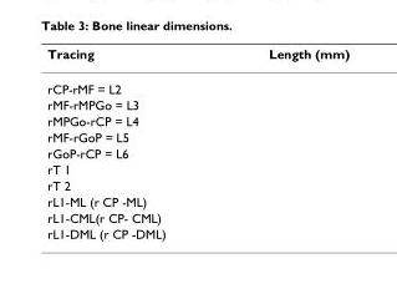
<table><thead><tr><td>Tracing</td><td>Length (mm)</td></tr></thead><tbody><tr><td colspan="2">rCP-rMF = L2</td></tr><tr><td colspan="2">rMF-rMPGo = L3</td></tr><tr><td colspan="2">rMPGo-rCP = L4</td></tr><tr><td colspan="2">rMF-rGoP = L5</td></tr><tr><td colspan="2">rGoP-rCP = L6</td></tr><tr><td colspan="2">rT 1</td></tr><tr><td colspan="2">rT 2</td></tr><tr><td colspan="2">rL1-ML (r CP -ML)</td></tr><tr><td colspan="2">rL1-CML(r CP- CML)</td></tr><tr><td>rL1-DML (r CP -DML)</td><td></td></tr></tbody></table>